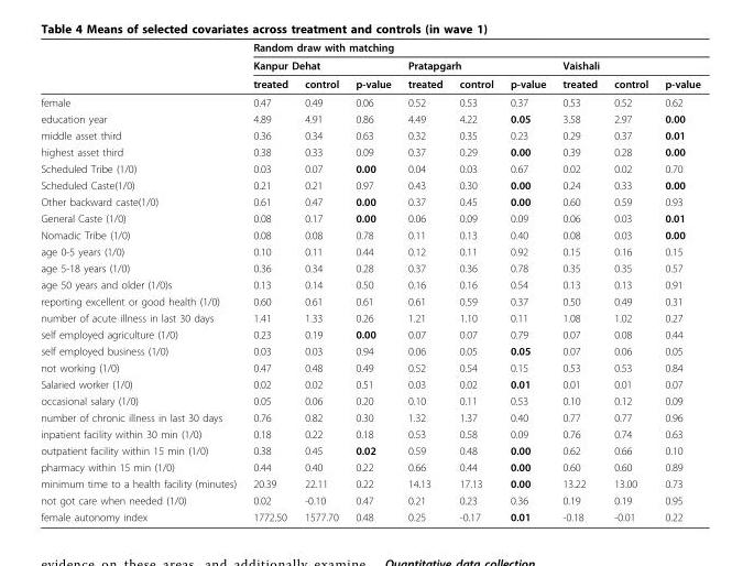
<table><thead><tr><td rowspan="3"></td><td colspan="9">Random draw with matching</td></tr><tr><td colspan="3">Kanpur Dehat</td><td colspan="3">Pratapgarh</td><td colspan="3">Vaishali</td></tr><tr><td>treated</td><td>control</td><td>p-value</td><td>treated</td><td>control</td><td>p-value</td><td>treated</td><td>control</td><td>p-value</td></tr></thead><tbody><tr><td>female</td><td>0.47</td><td>0.49</td><td>0.06</td><td>0.52</td><td>0.53</td><td>0.37</td><td>0.53</td><td>0.52</td><td>0.62</td></tr><tr><td>education year</td><td>4.89</td><td>4.91</td><td>0.86</td><td>4.49</td><td>4.22</td><td>0.05</td><td>3.58</td><td>2.97</td><td>0.00</td></tr><tr><td>middle asset third</td><td>0.36</td><td>0.34</td><td>0.63</td><td>0.32</td><td>0.35</td><td>0.23</td><td>0.29</td><td>0.37</td><td>0.01</td></tr><tr><td>highest asset third</td><td>0.38</td><td>0.33</td><td>0.09</td><td>0.37</td><td>0.29</td><td>0.00</td><td>0.39</td><td>0.28</td><td>0.00</td></tr><tr><td>Scheduled Tribe (1/0)</td><td>0.03</td><td>0.07</td><td>0.00</td><td>0.04</td><td>0.03</td><td>0.67</td><td>0.02</td><td>0.02</td><td>0.70</td></tr><tr><td>Scheduled Caste(1/0)</td><td>0.21</td><td>0.21</td><td>0.97</td><td>0.43</td><td>0.30</td><td>0.00</td><td>0.24</td><td>0.33</td><td>0.00</td></tr><tr><td>Other backward caste(1/0)</td><td>0.61</td><td>0.47</td><td>0.00</td><td>0.37</td><td>0.45</td><td>0.00</td><td>0.60</td><td>0.59</td><td>0.93</td></tr><tr><td>General Caste (1/0)</td><td>0.08</td><td>0.17</td><td>0.00</td><td>0.06</td><td>0.09</td><td>0.09</td><td>0.06</td><td>0.03</td><td>0.01</td></tr><tr><td>Nomadic Tribe (1/0)</td><td>0.08</td><td>0.08</td><td>0.78</td><td>0.11</td><td>0.13</td><td>0.40</td><td>0.08</td><td>0.03</td><td>0.00</td></tr><tr><td>age 0-5 years (1/0)</td><td>0.10</td><td>0.11</td><td>0.44</td><td>0.12</td><td>0.11</td><td>0.92</td><td>0.15</td><td>0.16</td><td>0.15</td></tr><tr><td>age 5-18 years (1/0)</td><td>0.36</td><td>0.34</td><td>0.28</td><td>0.37</td><td>0.36</td><td>0.78</td><td>0.35</td><td>0.35</td><td>0.57</td></tr><tr><td>age 50 years and older (1/0)s</td><td>0.13</td><td>0.14</td><td>0.50</td><td>0.16</td><td>0.16</td><td>0.54</td><td>0.13</td><td>0.13</td><td>0.91</td></tr><tr><td>reporting excellent or good health (1/0)</td><td>0.60</td><td>0.61</td><td>0.61</td><td>0.61</td><td>0.59</td><td>0.37</td><td>0.50</td><td>0.49</td><td>0.31</td></tr><tr><td>number of acute illness in last 30 days</td><td>1.41</td><td>1.33</td><td>0.26</td><td>1.21</td><td>1.10</td><td>0.11</td><td>1.08</td><td>1.02</td><td>0.27</td></tr><tr><td>self employed agriculture (1/0)</td><td>0.23</td><td>0.19</td><td>0.00</td><td>0.07</td><td>0.07</td><td>0.79</td><td>0.07</td><td>0.08</td><td>0.44</td></tr><tr><td>self employed business (1/0)</td><td>0.03</td><td>0.03</td><td>0.94</td><td>0.06</td><td>0.05</td><td>0.05</td><td>0.07</td><td>0.06</td><td>0.05</td></tr><tr><td>not working (1/0)</td><td>0.47</td><td>0.48</td><td>0.49</td><td>0.52</td><td>0.54</td><td>0.15</td><td>0.53</td><td>0.53</td><td>0.84</td></tr><tr><td>Salaried worker (1/0)</td><td>0.02</td><td>0.02</td><td>0.51</td><td>0.03</td><td>0.02</td><td>0.01</td><td>0.01</td><td>0.01</td><td>0.07</td></tr><tr><td>occasional salary (1/0)</td><td>0.05</td><td>0.06</td><td>0.20</td><td>0.10</td><td>0.11</td><td>0.53</td><td>0.10</td><td>0.12</td><td>0.09</td></tr><tr><td>number of chronic illness in last 30 days</td><td>0.76</td><td>0.82</td><td>0.30</td><td>1.32</td><td>1.37</td><td>0.40</td><td>0.77</td><td>0.77</td><td>0.96</td></tr><tr><td>inpatient facility within 30 min (1/0)</td><td>0.18</td><td>0.22</td><td>0.18</td><td>0.53</td><td>0.58</td><td>0.09</td><td>0.76</td><td>0.74</td><td>0.63</td></tr><tr><td>outpatient facility within 15 min (1/0)</td><td>0.38</td><td>0.45</td><td>0.02</td><td>0.59</td><td>0.48</td><td>0.00</td><td>0.62</td><td>0.66</td><td>0.10</td></tr><tr><td>pharmacy within 15 min (1/0)</td><td>0.44</td><td>0.40</td><td>0.22</td><td>0.66</td><td>0.44</td><td>0.00</td><td>0.60</td><td>0.60</td><td>0.89</td></tr><tr><td>minimum time to a health facility (minutes)</td><td>20.39</td><td>22.11</td><td>0.22</td><td>14.13</td><td>17.13</td><td>0.00</td><td>13.22</td><td>13.00</td><td>0.73</td></tr><tr><td>not got care when needed (1/0)</td><td>0.02</td><td>-0.10</td><td>0.47</td><td>0.21</td><td>0.23</td><td>0.36</td><td>0.19</td><td>0.19</td><td>0.95</td></tr><tr><td>female autonomy index</td><td>1772.50</td><td>1577.70</td><td>0.48</td><td>0.25</td><td>-0.17</td><td>0.01</td><td>-0.18</td><td>-0.01</td><td>0.22</td></tr></tbody></table>